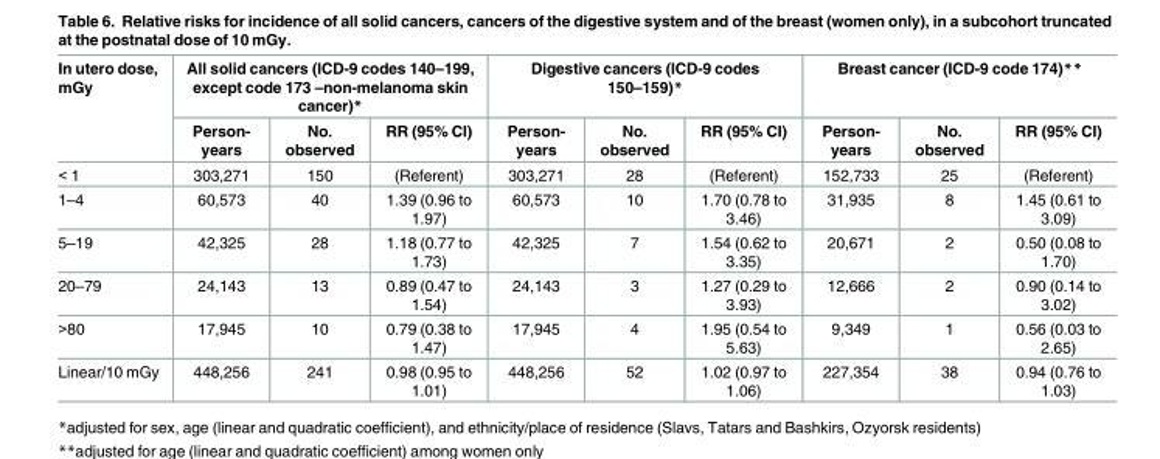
<table><thead><tr><td rowspan="2">In utero dose, mGy</td><td colspan="3">All solid cancers (ICD-9 codes 140–199, except code 173 –non-melanoma skin cancer)*</td><td colspan="3">Digestive cancers (ICD-9 codes 150–159)*</td><td colspan="3">Breast cancer (ICD-9 code 174)**</td></tr><tr><td>Person- years</td><td>No. observed</td><td>RR (95% CI)</td><td>Person- years</td><td>No. observed</td><td>RR (95% CI)</td><td>Person- years</td><td>No. observed</td><td>RR (95% CI)</td></tr></thead><tbody><tr><td>&lt; 1</td><td>303,271</td><td>150</td><td>(Referent)</td><td>303,271</td><td>28</td><td>(Referent)</td><td>152,733</td><td>25</td><td>(Referent)</td></tr><tr><td>1–4</td><td>60,573</td><td>40</td><td>1.39 (0.96 to 1.97)</td><td>60,573</td><td>10</td><td>1.70 (0.78 to 3.46)</td><td>31,935</td><td>8</td><td>1.45 (0.61 to 3.09)</td></tr><tr><td>5–19</td><td>42,325</td><td>28</td><td>1.18 (0.77 to 1.73)</td><td>42,325</td><td>7</td><td>1.54 (0.62 to 3.35)</td><td>20,671</td><td>2</td><td>0.50 (0.08 to 1.70)</td></tr><tr><td>20–79</td><td>24,143</td><td>13</td><td>0.89 (0.47 to 1.54)</td><td>24,143</td><td>3</td><td>1.27 (0.29 to 3.93)</td><td>12,666</td><td>2</td><td>0.90 (0.14 to 3.02)</td></tr><tr><td>&gt;80</td><td>17,945</td><td>10</td><td>0.79 (0.38 to 1.47)</td><td>17,945</td><td>4</td><td>1.95 (0.54 to 5.63)</td><td>9,349</td><td>1</td><td>0.56 (0.03 to 2.65)</td></tr><tr><td>Linear/10 mGy</td><td>448,256</td><td>241</td><td>0.98 (0.95 to 1.01)</td><td>448,256</td><td>52</td><td>1.02 (0.97 to 1.06)</td><td>227,354</td><td>38</td><td>0.94 (0.76 to 1.03)</td></tr></tbody></table>